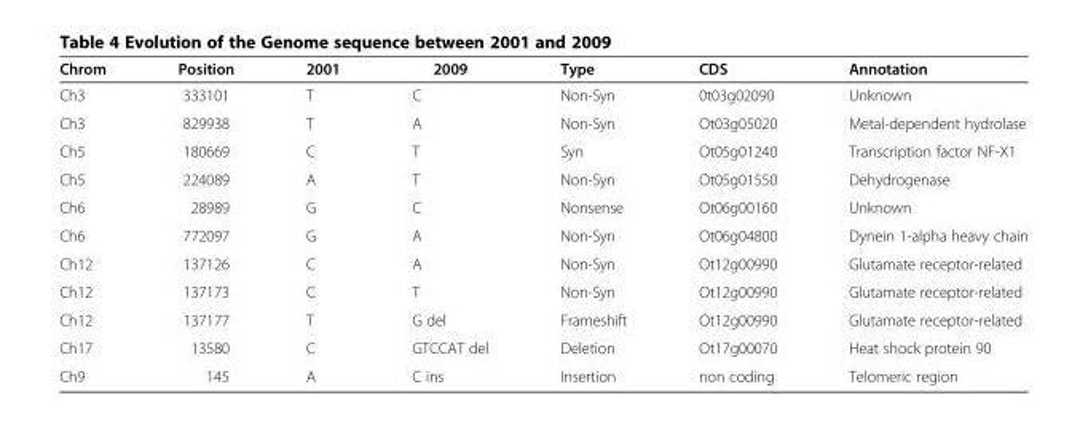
<table><thead><tr><td>Chrom</td><td>Position</td><td>2001</td><td>2009</td><td>Type</td><td>CDS</td><td>Annotation</td></tr></thead><tbody><tr><td>Ch3</td><td>333101</td><td>T</td><td>C</td><td>Non-Syn</td><td>0t03g02090</td><td>Unknown</td></tr><tr><td>Ch3</td><td>829938</td><td>T</td><td>A</td><td>Non-Syn</td><td>Ot03g05020</td><td>Metal-dependent hydrolase</td></tr><tr><td>Ch5</td><td>180669</td><td>C</td><td>T</td><td>Syn</td><td>Ot05g01240</td><td>Transcription factor NF-X1</td></tr><tr><td>Ch5</td><td>224089</td><td>A</td><td>T</td><td>Non-Syn</td><td>Ot05g01550</td><td>Dehydrogenase</td></tr><tr><td>Ch6</td><td>28989</td><td>G</td><td>C</td><td>Nonsense</td><td>Ot06g00160</td><td>Unknown</td></tr><tr><td>Ch6</td><td>772097</td><td>G</td><td>A</td><td>Non-Syn</td><td>Ot06g04800</td><td>Dynein 1-alpha heavy chain</td></tr><tr><td>Ch12</td><td>137126</td><td>C</td><td>A</td><td>Non-Syn</td><td>Ot12g00990</td><td>Glutamate receptor-related</td></tr><tr><td>Ch12</td><td>137173</td><td>C</td><td>T</td><td>Non-Syn</td><td>Ot12g00990</td><td>Glutamate receptor-related</td></tr><tr><td>Ch12</td><td>137177</td><td>T</td><td>G del</td><td>Frameshift</td><td>Ot12g00990</td><td>Glutamate receptor-related</td></tr><tr><td>Ch17</td><td>13580</td><td>C</td><td>GTCCAT del</td><td>Deletion</td><td>Ot17g00070</td><td>Heat shock protein 90</td></tr><tr><td>Ch9</td><td>145</td><td>A</td><td>C ins</td><td>Insertion</td><td>non coding</td><td>Telomeric region</td></tr></tbody></table>